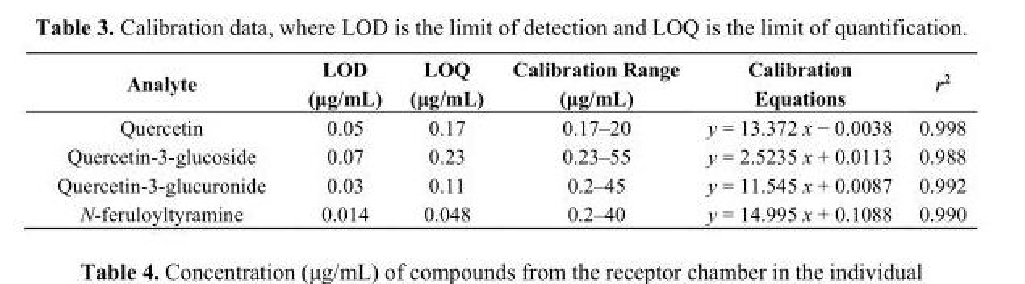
<table><thead><tr><td>Analyte</td><td>LOD (μg/mL)</td><td>LOQ (μg/mL)</td><td>Calibration Range (μg/mL)</td><td>Calibration Equations</td><td>r<sup>2</sup></td></tr></thead><tbody><tr><td>Quercetin</td><td>0.05</td><td>0.17</td><td>0.17–20</td><td>y = 13.372 x − 0.0038</td><td>0.998</td></tr><tr><td>Quercetin-3-glucoside</td><td>0.07</td><td>0.23</td><td>0.23–55</td><td>y = 2.5235 x + 0.0113</td><td>0.988</td></tr><tr><td>Quercetin-3-glucuronide</td><td>0.03</td><td>0.11</td><td>0.2–45</td><td>y = 11.545 x + 0.0087</td><td>0.992</td></tr><tr><td>N-feruloyltyramine</td><td>0.014</td><td>0.048</td><td>0.2–40</td><td>y = 14.995 x + 0.1088</td><td>0.990</td></tr></tbody></table>